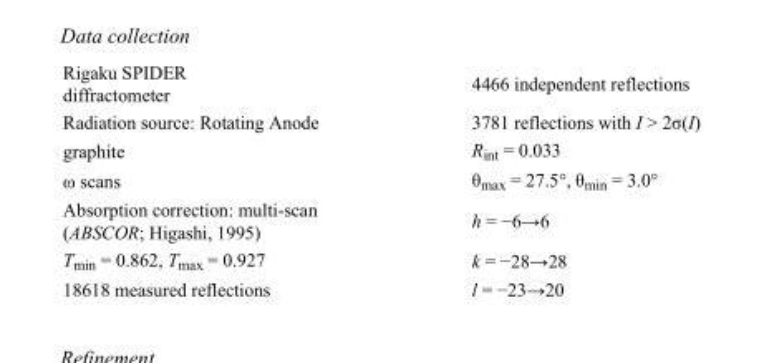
<table><tbody><tr><td>Rigaku SPIDER diffractometer</td><td>4466 independent reflections</td></tr><tr><td>Radiation source: Rotating Anode</td><td>3781 reflections with I &gt; 2σ(I)</td></tr><tr><td>graphite</td><td>R<sub>int</sub> = 0.033</td></tr><tr><td>ω scans</td><td>θ<sub>max</sub> = 27.5°, θ<sub>min</sub> = 3.0°</td></tr><tr><td>Absorption correction: multi-scan (ABSCOR; Higashi, 1995)</td><td>h = −6→6</td></tr><tr><td>T<sub>min</sub> = 0.862, T<sub>max</sub> = 0.927</td><td>k = −28→28</td></tr><tr><td>18618 measured reflections</td><td>l = −23→20</td></tr></tbody></table>